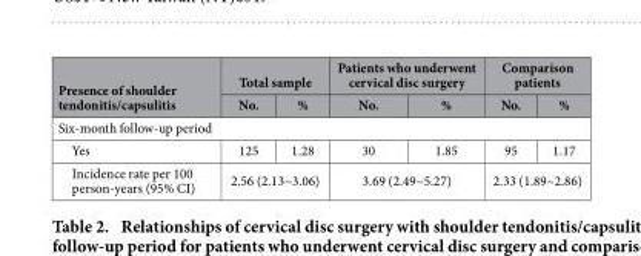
<table><thead><tr><td rowspan="2">Presence of shoulder tendonitis/capsulitis</td><td colspan="2">Total sample</td><td colspan="2">Patients who underwent cervical disc surgery</td><td colspan="2">Comparison patients</td></tr><tr><td>No.</td><td>%</td><td>No.</td><td>%</td><td>No.</td><td>%</td></tr></thead><tbody><tr><td colspan="7">Six-month follow-up period</td></tr><tr><td>Yes</td><td>125</td><td>1.28</td><td>30</td><td>1.85</td><td>95</td><td>1.17</td></tr><tr><td>Incidence rate per 100 person-years (95% CI)</td><td colspan="2">2.56 (2.13~3.06)</td><td colspan="2">3.69 (2.49~5.27)</td><td colspan="2">2.33 (1.89~2.86)</td></tr></tbody></table>